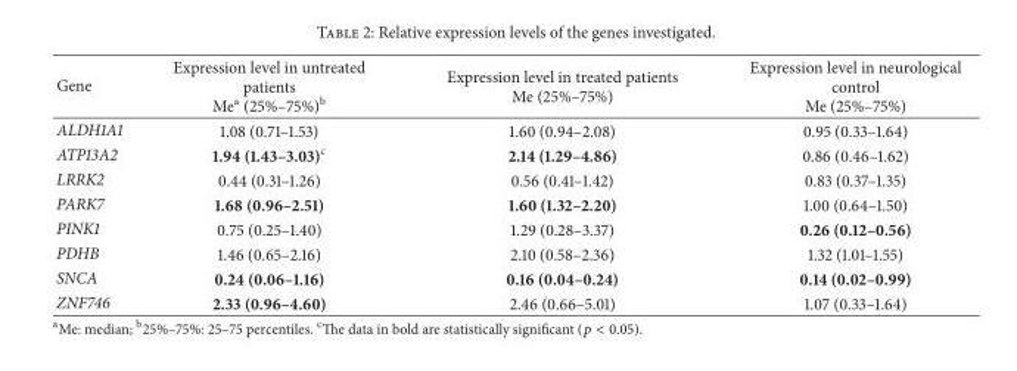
<table><thead><tr><td>Gene</td><td>Expression level in untreated patients Me<sup>a</sup> (25%–75%)<sup>b</sup></td><td>Expression level in treated patients Me (25%–75%)</td><td>Expression level in neurological control Me (25%–75%)</td></tr></thead><tbody><tr><td>ALDH1A1</td><td>1.08 (0.71–1.53)</td><td>1.60 (0.94–2.08)</td><td>0.95 (0.33–1.64)</td></tr><tr><td>ATP13A2</td><td>1.94 (1.43–3.03)<sup>c</sup></td><td>2.14 (1.29–4.86)</td><td>0.86 (0.46–1.62)</td></tr><tr><td>LRRK2</td><td>0.44 (0.31–1.26)</td><td>0.56 (0.41–1.42)</td><td>0.83 (0.37–1.35)</td></tr><tr><td>PARK7</td><td>1.68 (0.96–2.51)</td><td>1.60 (1.32–2.20)</td><td>1.00 (0.64–1.50)</td></tr><tr><td>PINK1</td><td>0.75 (0.25–1.40)</td><td>1.29 (0.28–3.37)</td><td>0.26 (0.12–0.56)</td></tr><tr><td>PDHB</td><td>1.46 (0.65–2.16)</td><td>2.10 (0.58–2.36)</td><td>1.32 (1.01–1.55)</td></tr><tr><td>SNCA</td><td>0.24 (0.06–1.16)</td><td>0.16 (0.04–0.24)</td><td>0.14 (0.02–0.99)</td></tr><tr><td>ZNF746</td><td>2.33 (0.96–4.60)</td><td>2.46 (0.66–5.01)</td><td>1.07 (0.33–1.64)</td></tr></tbody></table>